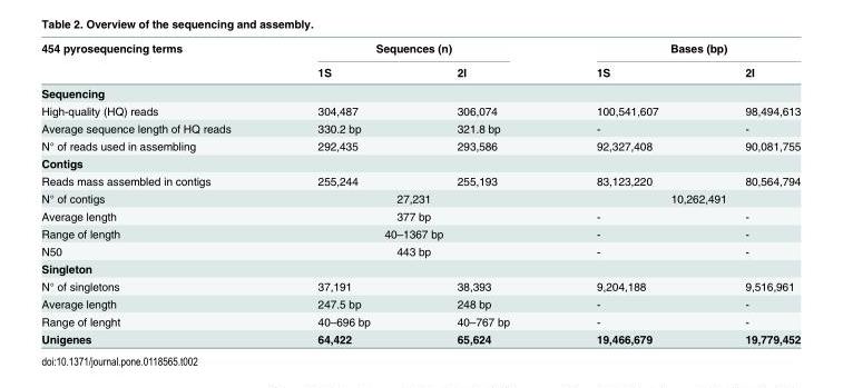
<table><thead><tr><td rowspan="2">454 pyrosequencing terms</td><td colspan="2">Sequences (n)</td><td colspan="2">Bases (bp)</td></tr><tr><td>1S</td><td>2I</td><td>1S</td><td>2I</td></tr></thead><tbody><tr><td colspan="5">Sequencing</td></tr><tr><td>High-quality (HQ) reads</td><td>304,487</td><td>306,074</td><td>100,541,607</td><td>98,494,613</td></tr><tr><td>Average sequence length of HQ reads</td><td>330.2 bp</td><td>321.8 bp</td><td>-</td><td>-</td></tr><tr><td>N° of reads used in assembling</td><td>292,435</td><td>293,586</td><td>92,327,408</td><td>90,081,755</td></tr><tr><td colspan="5">Contigs</td></tr><tr><td>Reads mass assembled in contigs</td><td>255,244</td><td>255,193</td><td>83,123,220</td><td>80,564,794</td></tr><tr><td>N° of contigs</td><td colspan="2">27,231</td><td colspan="2">10,262,491</td></tr><tr><td>Average length</td><td colspan="2">377 bp</td><td>-</td><td>-</td></tr><tr><td>Range of length</td><td colspan="2">40–1367 bp</td><td>-</td><td>-</td></tr><tr><td>N50</td><td colspan="2">443 bp</td><td>-</td><td>-</td></tr><tr><td colspan="5">Singleton</td></tr><tr><td>N° of singletons</td><td>37,191</td><td>38,393</td><td>9,204,188</td><td>9,516,961</td></tr><tr><td>Average length</td><td>247.5 bp</td><td>248 bp</td><td>-</td><td>-</td></tr><tr><td>Range of lenght</td><td>40–696 bp</td><td>40–767 bp</td><td>-</td><td>-</td></tr><tr><td>Unigenes</td><td>64,422</td><td>65,624</td><td>19,466,679</td><td>19,779,452</td></tr></tbody></table>